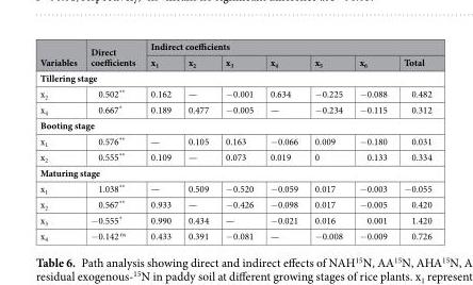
<table><thead><tr><td rowspan="2">Variables</td><td rowspan="2">Direct coefficients</td><td colspan="7">Indirect coefficients</td></tr><tr><td>x<sub>1</sub></td><td>x<sub>2</sub></td><td>x<sub>3</sub></td><td>x<sub>4</sub></td><td>x<sub>5</sub></td><td>x<sub>6</sub></td><td>Total</td></tr></thead><tbody><tr><td colspan="9">Tillering stage</td></tr><tr><td>x<sub>2</sub></td><td>0.502**</td><td>0.162</td><td>—</td><td>−0.001</td><td>0.634</td><td>−0.225</td><td>−0.088</td><td>0.482</td></tr><tr><td>x<sub>4</sub></td><td>0.667*</td><td>0.189</td><td>0.477</td><td>−0.005</td><td>—</td><td>−0.234</td><td>−0.115</td><td>0.312</td></tr><tr><td colspan="9">Booting stage</td></tr><tr><td>x<sub>1</sub></td><td>0.576**</td><td>—</td><td>0.105</td><td>0.163</td><td>−0.066</td><td>0.009</td><td>−0.180</td><td>0.031</td></tr><tr><td>x<sub>2</sub></td><td>0.555**</td><td>0.109</td><td>—</td><td>0.073</td><td>0.019</td><td>0</td><td>0.133</td><td>0.334</td></tr><tr><td colspan="9">Maturing stage</td></tr><tr><td>x<sub>1</sub></td><td>1.038**</td><td>—</td><td>0.509</td><td>−0.520</td><td>−0.059</td><td>0.017</td><td>−0.003</td><td>−0.055</td></tr><tr><td>x<sub>2</sub></td><td>0.567**</td><td>0.933</td><td>—</td><td>−0.426</td><td>−0.098</td><td>0.017</td><td>−0.005</td><td>0.420</td></tr><tr><td>x<sub>3</sub></td><td>−0.555*</td><td>0.990</td><td>0.434</td><td>—</td><td>−0.021</td><td>0.016</td><td>0.001</td><td>1.420</td></tr><tr><td>x<sub>4</sub></td><td>−0.142 <sup>ns</sup></td><td>0.433</td><td>0.391</td><td>−0.081</td><td>—</td><td>−0.008</td><td>−0.009</td><td>0.726</td></tr></tbody></table>